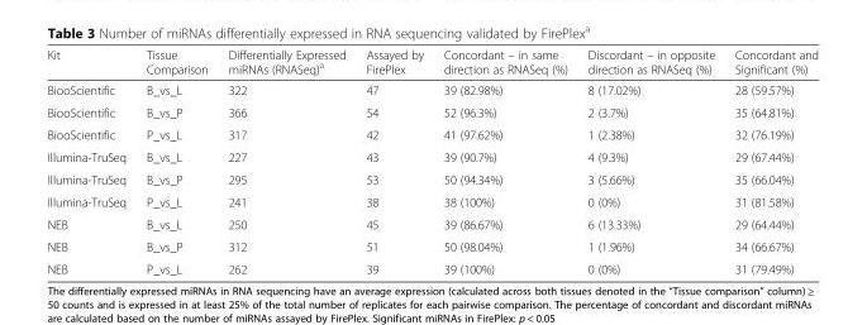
<table><thead><tr><td>Kit</td><td>Tissue Comparison</td><td>Differentially Expressed miRNAs (RNASeq)<sup>a</sup></td><td>Assayed by FirePlex</td><td>Concordant – in same direction as RNASeq (%)</td><td>Discordant – in opposite direction as RNASeq (%)</td><td>Concordant and Significant (%)</td></tr></thead><tbody><tr><td>BiooScientific</td><td>B_vs_L</td><td>322</td><td>47</td><td>39 (82.98%)</td><td>8 (17.02%)</td><td>28 (59.57%)</td></tr><tr><td>BiooScientific</td><td>B_vs_P</td><td>366</td><td>54</td><td>52 (96.3%)</td><td>2 (3.7%)</td><td>35 (64.81%)</td></tr><tr><td>BiooScientific</td><td>P_vs_L</td><td>317</td><td>42</td><td>41 (97.62%)</td><td>1 (2.38%)</td><td>32 (76.19%)</td></tr><tr><td>Illumina-TruSeq</td><td>B_vs_L</td><td>227</td><td>43</td><td>39 (90.7%)</td><td>4 (9.3%)</td><td>29 (67.44%)</td></tr><tr><td>Illumina-TruSeq</td><td>B_vs_P</td><td>295</td><td>53</td><td>50 (94.34%)</td><td>3 (5.66%)</td><td>35 (66.04%)</td></tr><tr><td>Illumina-TruSeq</td><td>P_vs_L</td><td>241</td><td>38</td><td>38 (100%)</td><td>0 (0%)</td><td>31 (81.58%)</td></tr><tr><td>NEB</td><td>B_vs_L</td><td>250</td><td>45</td><td>39 (86.67%)</td><td>6 (13.33%)</td><td>29 (64.44%)</td></tr><tr><td>NEB</td><td>B_vs_P</td><td>312</td><td>51</td><td>50 (98.04%)</td><td>1 (1.96%)</td><td>34 (66.67%)</td></tr><tr><td>NEB</td><td>P_vs_L</td><td>262</td><td>39</td><td>39 (100%)</td><td>0 (0%)</td><td>31 (79.49%)</td></tr></tbody></table>